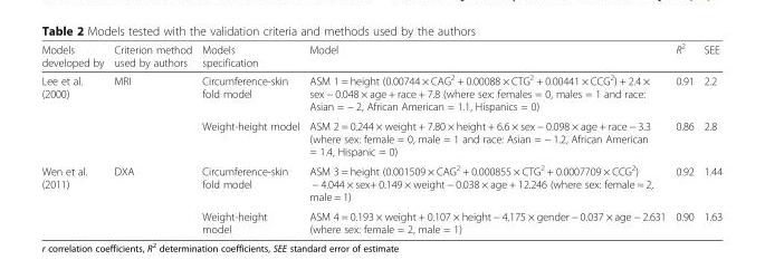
<table><thead><tr><td>Models developed by</td><td>Criterion method used by authors</td><td>Models specification</td><td>Model</td><td>R<sup>2</sup></td><td>SEE</td></tr></thead><tbody><tr><td rowspan="2">Lee et al. (2000)</td><td rowspan="2">MRI</td><td>Circumference-skin fold model</td><td>ASM 1 = height (0.00744 × CAG<sup>2</sup> + 0.00088 × CTG<sup>2</sup> + 0.00441 × CCG<sup>2</sup>) + 2.4 × sex − 0.048 × age + race + 7.8 (where sex: females = 0, males = 1 and race: Asian = − 2, African American = 1.1, Hispanics = 0)</td><td>0.91</td><td>2.2</td></tr><tr><td>Weight-height model</td><td>ASM 2 = 0.244 × weight + 7.80 × height + 6.6 × sex − 0.098 × age + race − 3.3 (where sex: female = 0, male = 1 and race: Asian = − 1.2, African American = 1.4, Hispanic = 0)</td><td>0.86</td><td>2.8</td></tr><tr><td rowspan="2">Wen et al. (2011)</td><td rowspan="2">DXA</td><td>Circumference-skin fold model</td><td>ASM 3 = height (0.001509 × CAG<sup>2</sup> + 0.000855 × CTG<sup>2</sup> + 0.0007709 × CCG<sup>2</sup>) − 4.044 × sex+ 0.149 × weight − 0.038 × age + 12.246 (where sex: female = 2, male = 1)</td><td>0.92</td><td>1.44</td></tr><tr><td>Weight-height model</td><td>ASM 4 = 0.193 × weight + 0.107 × height − 4.175 × gender − 0.037 × age − 2.631 (where sex: female = 2, male = 1)</td><td>0.90</td><td>1.63</td></tr></tbody></table>